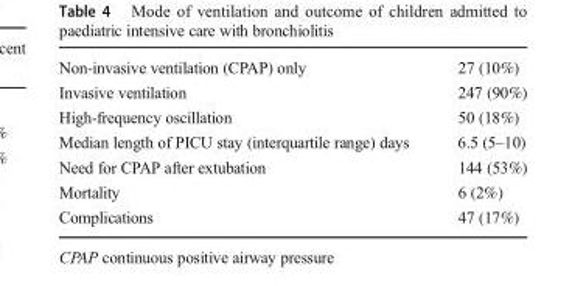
<table><tbody><tr><td>Non-invasive ventilation (CPAP) only</td><td>27 (10%)</td></tr><tr><td>Invasive ventilation</td><td>247 (90%)</td></tr><tr><td>High-frequency oscillation</td><td>50 (18%)</td></tr><tr><td>Median length of PICU stay (interquartile range) days</td><td>6.5 (5–10)</td></tr><tr><td>Need for CPAP after extubation</td><td>144 (53%)</td></tr><tr><td>Mortality</td><td>6 (2%)</td></tr><tr><td>Complications</td><td>47 (17%)</td></tr></tbody></table>